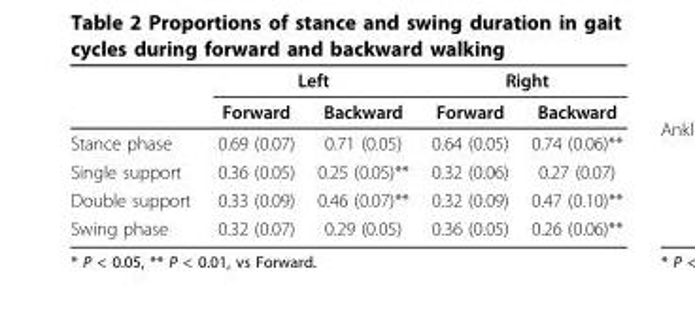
<table><thead><tr><td rowspan="2"></td><td colspan="2">Left</td><td colspan="2">Right</td></tr><tr><td>Forward</td><td>Backward</td><td>Forward</td><td>Backward</td></tr></thead><tbody><tr><td>Stance phase</td><td>0.69 (0.07)</td><td>0.71 (0.05)</td><td>0.64 (0.05)</td><td>0.74 (0.06)**</td></tr><tr><td>Single support</td><td>0.36 (0.05)</td><td>0.25 (0.05)**</td><td>0.32 (0.06)</td><td>0.27 (0.07)</td></tr><tr><td>Double support</td><td>0.33 (0.09)</td><td>0.46 (0.07)**</td><td>0.32 (0.09)</td><td>0.47 (0.10)**</td></tr><tr><td>Swing phase</td><td>0.32 (0.07)</td><td>0.29 (0.05)</td><td>0.36 (0.05)</td><td>0.26 (0.06)**</td></tr></tbody></table>